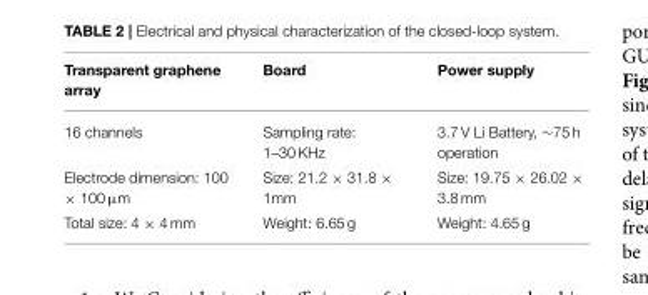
<table><thead><tr><td>Transparent graphene array</td><td>Board</td><td>Power supply</td></tr></thead><tbody><tr><td>16 channels</td><td>Sampling rate: 1–30 KHz</td><td>3.7 V Li Battery, ∼75 h operation</td></tr><tr><td>Electrode dimension: 100 × 100 µm</td><td>Size: 21.2 × 31.8 × 1mm</td><td>Size: 19.75 × 26.02 × 3.8 mm</td></tr><tr><td>Total size: 4 × 4 mm</td><td>Weight: 6.65 g</td><td>Weight: 4.65 g</td></tr></tbody></table>